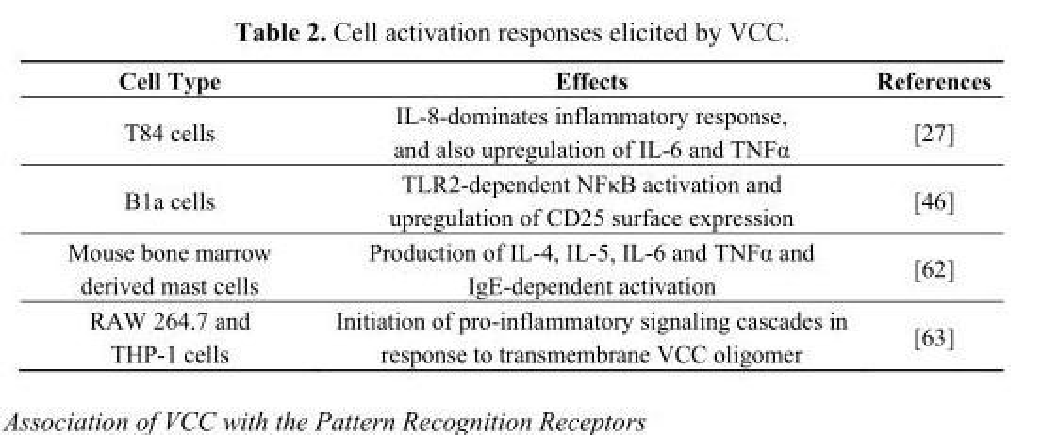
<table><thead><tr><td>Cell Type</td><td>Effects</td><td>References</td></tr></thead><tbody><tr><td>T84 cells</td><td>IL-8-dominates inflammatory response, and also upregulation of IL-6 and TNFα</td><td>[27]</td></tr><tr><td>B1a cells</td><td>TLR2-dependent NFκB activation and upregulation of CD25 surface expression</td><td>[46]</td></tr><tr><td>Mouse bone marrow derived mast cells</td><td>Production of IL-4, IL-5, IL-6 and TNFα and IgE-dependent activation</td><td>[62]</td></tr><tr><td>RAW 264.7 and THP-1 cells</td><td>Initiation of pro-inflammatory signaling cascades in response to transmembrane VCC oligomer</td><td>[63]</td></tr></tbody></table>